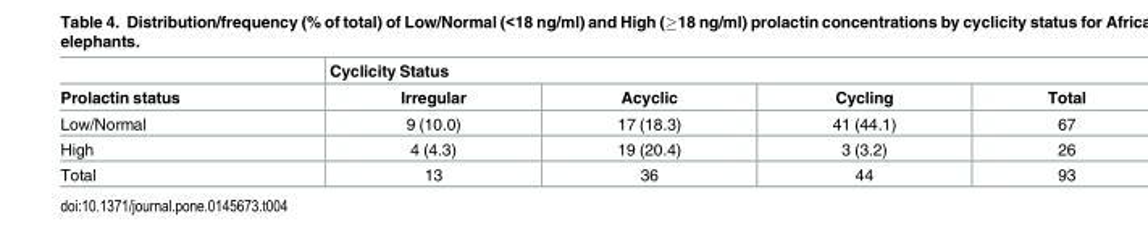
<table><thead><tr><td rowspan="2">Prolactin status</td><td colspan="4">Cyclicity Status</td></tr><tr><td>Irregular</td><td>Acyclic</td><td>Cycling</td><td>Total</td></tr></thead><tbody><tr><td>Low/Normal</td><td>9 (10.0)</td><td>17 (18.3)</td><td>41 (44.1)</td><td>67</td></tr><tr><td>High</td><td>4 (4.3)</td><td>19 (20.4)</td><td>3 (3.2)</td><td>26</td></tr><tr><td>Total</td><td>13</td><td>36</td><td>44</td><td>93</td></tr></tbody></table>